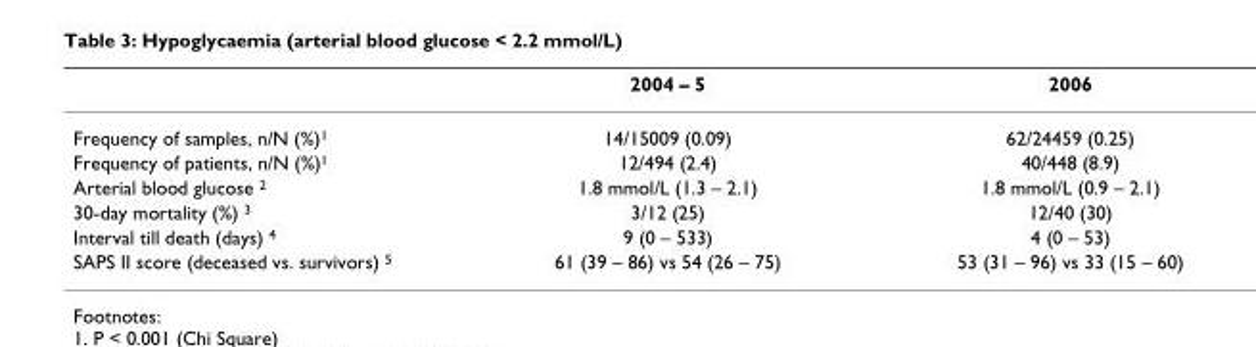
<table><thead><tr><td></td><td>2004 – 5</td><td>2006</td></tr></thead><tbody><tr><td>Frequency of samples, n/N (%)<sup>1</sup></td><td>14/15009 (0.09)</td><td>62/24459 (0.25)</td></tr><tr><td>Frequency of patients, n/N (%)<sup>1</sup></td><td>12/494 (2.4)</td><td>40/448 (8.9)</td></tr><tr><td>Arterial blood glucose <sup>2</sup></td><td>1.8 mmol/L (1.3 – 2.1)</td><td>1.8 mmol/L (0.9 – 2.1)</td></tr><tr><td>30-day mortality (%) <sup>3</sup></td><td>3/12 (25)</td><td>12/40 (30)</td></tr><tr><td>Interval till death (days) <sup>4</sup></td><td>9 (0 – 533)</td><td>4 (0 – 53)</td></tr><tr><td>SAPS II score (deceased vs. survivors) <sup>5</sup></td><td>61 (39 – 86) vs 54 (26 – 75)</td><td>53 (31 – 96) vs 33 (15 – 60)</td></tr></tbody></table>